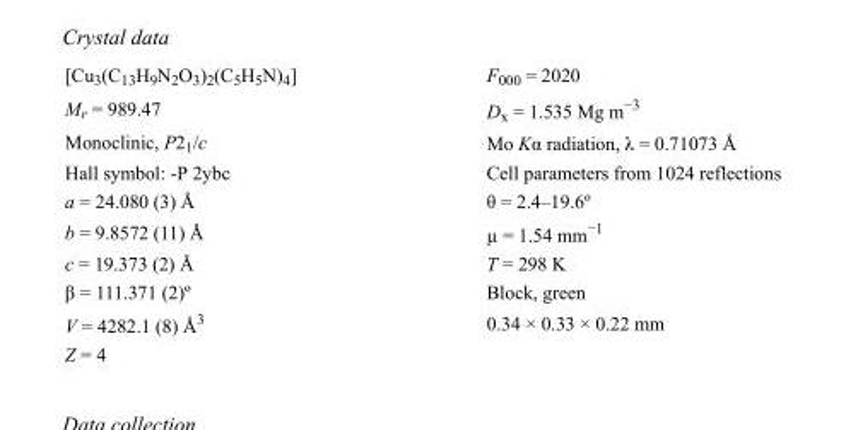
<table><tbody><tr><td>[Cu<sub>3</sub>(C<sub>13</sub>H<sub>9</sub>N<sub>2</sub>O<sub>3</sub>)<sub>2</sub>(C<sub>5</sub>H<sub>5</sub>N)<sub>4</sub>]</td><td>F000 = 2020</td></tr><tr><td>M<sub>r</sub> = 989.47</td><td>D<sub>x</sub> = 1.535 Mg m<sup>−3</sup></td></tr><tr><td>Monoclinic, P2<sub>1</sub>/c</td><td>Mo Kα radiation, λ = 0.71073 Å</td></tr><tr><td>Hall symbol: -P 2ybc</td><td>Cell parameters from 1024 reflections</td></tr><tr><td>a = 24.080 (3) Å</td><td>θ = 2.4–19.6º</td></tr><tr><td>b = 9.8572 (11) Å</td><td>µ = 1.54 mm<sup>−1</sup></td></tr><tr><td>c = 19.373 (2) Å</td><td>T = 298 K</td></tr><tr><td>β = 111.371 (2)º</td><td>Block, green</td></tr><tr><td>V = 4282.1 (8) Å<sup>3</sup></td><td>0.34 × 0.33 × 0.22 mm</td></tr><tr><td>Z = 4</td><td></td></tr></tbody></table>